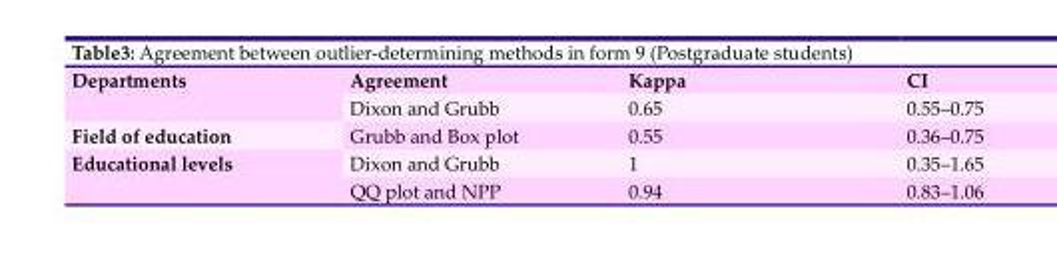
<table><thead><tr><td rowspan="2">Departments</td><td rowspan="2">Agreement Dixon and Grubb</td><td rowspan="2">Kappa 0.65</td><td rowspan="2">CI 0.55–0.75</td></tr><tr></tr></thead><tbody><tr><td>Field of education</td><td>Grubb and Box plot</td><td>0.55</td><td>0.36–0.75</td></tr><tr><td rowspan="2">Educational levels</td><td>Dixon and Grubb</td><td>1</td><td>0.35–1.65</td></tr><tr><td>QQ plot and NPP</td><td>0.94</td><td>0.83–1.06</td></tr></tbody></table>